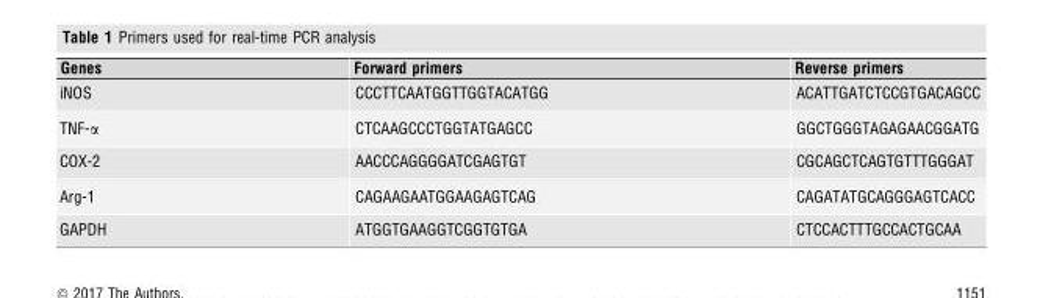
<table><thead><tr><td>Genes</td><td>Forward primers</td><td>Reverse primers</td></tr></thead><tbody><tr><td>iNOS</td><td>CCCTTCAATGGTTGGTACATGG</td><td>ACATTGATCTCCGTGACAGCC</td></tr><tr><td>TNF-α</td><td>CTCAAGCCCTGGTATGAGCC</td><td>GGCTGGGTAGAGAACGGATG</td></tr><tr><td>COX-2</td><td>AACCCAGGGGATCGAGTGT</td><td>CGCAGCTCAGTGTTTGGGAT</td></tr><tr><td>Arg-1</td><td>CAGAAGAATGGAAGAGTCAG</td><td>CAGATATGCAGGGAGTCACC</td></tr><tr><td>GAPDH</td><td>ATGGTGAAGGTCGGTGTGA</td><td>CTCCACTTTGCCACTGCAA</td></tr></tbody></table>